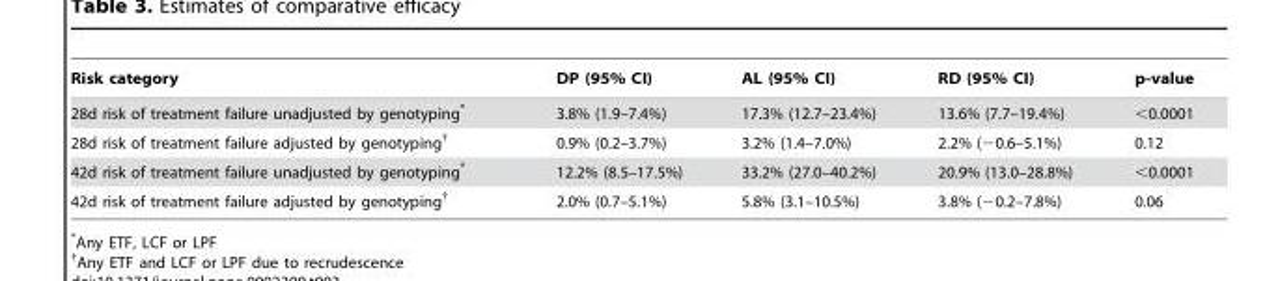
<table><thead><tr><td>Risk category</td><td>DP (95% CI)</td><td>AL (95% CI)</td><td>RD (95% CI)</td><td>p-value</td></tr></thead><tbody><tr><td>28d risk of treatment failure unadjusted by genotyping*</td><td>3.8% (1.9–7.4%)</td><td>17.3% (12.7–23.4%)</td><td>13.6% (7.7–19.4%)</td><td>&lt;0.0001</td></tr><tr><td>28d risk of treatment failure adjusted by genotyping†</td><td>0.9% (0.2–3.7%)</td><td>3.2% (1.4–7.0%)</td><td>2.2% (−0.6–5.1%)</td><td>0.12</td></tr><tr><td>42d risk of treatment failure unadjusted by genotyping*</td><td>12.2% (8.5–17.5%)</td><td>33.2% (27.0–40.2%)</td><td>20.9% (13.0–28.8%)</td><td>&lt;0.0001</td></tr><tr><td>42d risk of treatment failure adjusted by genotyping†</td><td>2.0% (0.7–5.1%)</td><td>5.8% (3.1–10.5%)</td><td>3.8% (−0.2–7.8%)</td><td>0.06</td></tr></tbody></table>